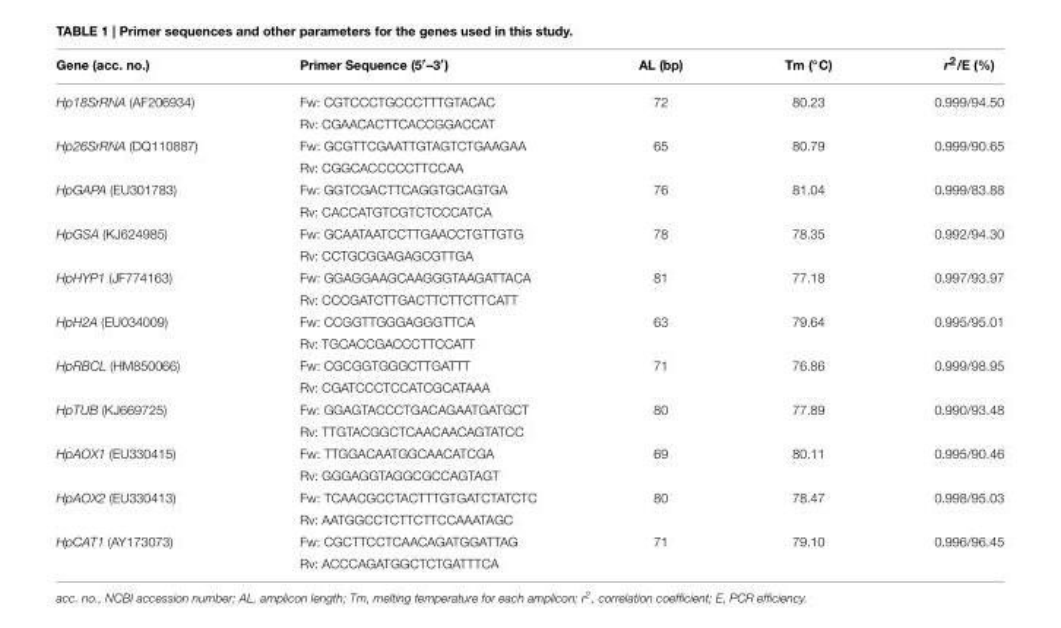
<table><thead><tr><td>Gene (acc. no.)</td><td>Primer Sequence (5′–3′)</td><td>AL (bp)</td><td>Tm (◦C)</td><td>r<sup>2</sup>/E (%)</td></tr></thead><tbody><tr><td rowspan="2">Hp18SrRNA (AF206934)</td><td>Fw: CGTCCCTGCCCTTTGTACAC</td><td>72</td><td>80.23</td><td>0.999/94.50</td></tr><tr><td>Rv: CGAACACTTCACCGGACCAT</td><td></td><td></td><td></td></tr><tr><td rowspan="2">Hp26SrRNA (DQ110887)</td><td>Fw: GCGTTCGAATTGTAGTCTGAAGAA</td><td>65</td><td>80.79</td><td>0.999/90.65</td></tr><tr><td>Rv: CGGCACCCCCTTCCAA</td><td></td><td></td><td></td></tr><tr><td rowspan="2">HpGAPA (EU301783)</td><td>Fw: GGTCGACTTCAGGTGCAGTGA</td><td>76</td><td>81.04</td><td>0.999/83.88</td></tr><tr><td>Rv: CACCATGTCGTCTCCCATCA</td><td></td><td></td><td></td></tr><tr><td rowspan="2">HpGSA (KJ624985)</td><td>Fw: GCAATAATCCTTGAACCTGTTGTG</td><td>78</td><td>78.35</td><td>0.992/94.30</td></tr><tr><td>Rv: CCTGCGGAGAGCGTTGA</td><td></td><td></td><td></td></tr><tr><td rowspan="2">HpHYP1 (JF774163)</td><td>Fw: GGAGGAAGCAAGGGTAAGATTACA</td><td>81</td><td>77.18</td><td>0.997/93.97</td></tr><tr><td>Rv: CCCGATCTTGACTTCTTCTTCATT</td><td></td><td></td><td></td></tr><tr><td rowspan="2">HpH2A (EU034009)</td><td>Fw: CCGGTTGGGAGGGTTCA</td><td>63</td><td>79.64</td><td>0.995/95.01</td></tr><tr><td>Rv: TGCACCGACCCTTCCATT</td><td></td><td></td><td></td></tr><tr><td rowspan="2">HpRBCL (HM850066)</td><td>Fw: CGCGGTGGGCTTGATTT</td><td>71</td><td>76.86</td><td>0.999/98.95</td></tr><tr><td>Rv: CGATCCCTCCATCGCATAAA</td><td></td><td></td><td></td></tr><tr><td rowspan="2">HpTUB (KJ669725)</td><td>Fw: GGAGTACCCTGACAGAATGATGCT</td><td>80</td><td>77.89</td><td>0.990/93.48</td></tr><tr><td>Rv: TTGTACGGCTCAACAACAGTATCC</td><td></td><td></td><td></td></tr><tr><td rowspan="2">HpAOX1 (EU330415)</td><td>Fw: TTGGACAATGGCAACATCGA</td><td>69</td><td>80.11</td><td>0.995/90.46</td></tr><tr><td>Rv: GGGAGGTAGGCGCCAGTAGT</td><td></td><td></td><td></td></tr><tr><td rowspan="2">HpAOX2 (EU330413)</td><td>Fw: TCAACGCCTACTTTGTGATCTATCTC</td><td>80</td><td>78.47</td><td>0.998/95.03</td></tr><tr><td>Rv: AATGGCCTCTTCTTCCAAATAGC</td><td></td><td></td><td></td></tr><tr><td rowspan="2">HpCAT1 (AY173073)</td><td>Fw: CGCTTCCTCAACAGATGGATTAG</td><td>71</td><td>79.10</td><td>0.996/96.45</td></tr><tr><td>Rv: ACCCAGATGGCTCTGATTTCA</td><td></td><td></td><td></td></tr></tbody></table>